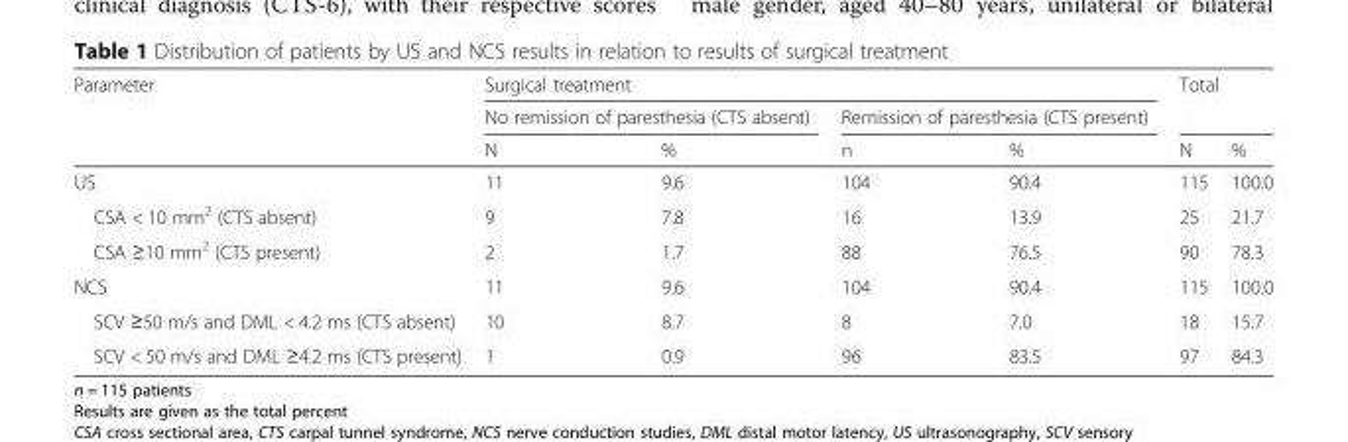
<table><thead><tr><td rowspan="3">Parameter</td><td colspan="4">Surgical treatment</td><td rowspan="2" colspan="2">Total</td></tr><tr><td colspan="2">No remission of paresthesia (CTS absent)</td><td colspan="2">Remission of paresthesia (CTS present)</td></tr><tr><td>N</td><td>%</td><td>n</td><td>%</td><td>N</td><td>%</td></tr></thead><tbody><tr><td>US</td><td>11</td><td>9.6</td><td>104</td><td>90.4</td><td>115</td><td>100.0</td></tr><tr><td>CSA &lt; 10 mm<sup>2</sup> (CTS absent)</td><td>9</td><td>7.8</td><td>16</td><td>13.9</td><td>25</td><td>21.7</td></tr><tr><td>CSA ≥10 mm<sup>2</sup> (CTS present)</td><td>2</td><td>1.7</td><td>88</td><td>76.5</td><td>90</td><td>78.3</td></tr><tr><td>NCS</td><td>11</td><td>9.6</td><td>104</td><td>90.4</td><td>115</td><td>100.0</td></tr><tr><td>SCV ≥50 m/s and DML &lt; 4.2 ms (CTS absent)</td><td>10</td><td>8.7</td><td>8</td><td>7.0</td><td>18</td><td>15.7</td></tr><tr><td>SCV &lt; 50 m/s and DML ≥4.2 ms (CTS present)</td><td>1</td><td>0.9</td><td>96</td><td>83.5</td><td>97</td><td>84.3</td></tr></tbody></table>